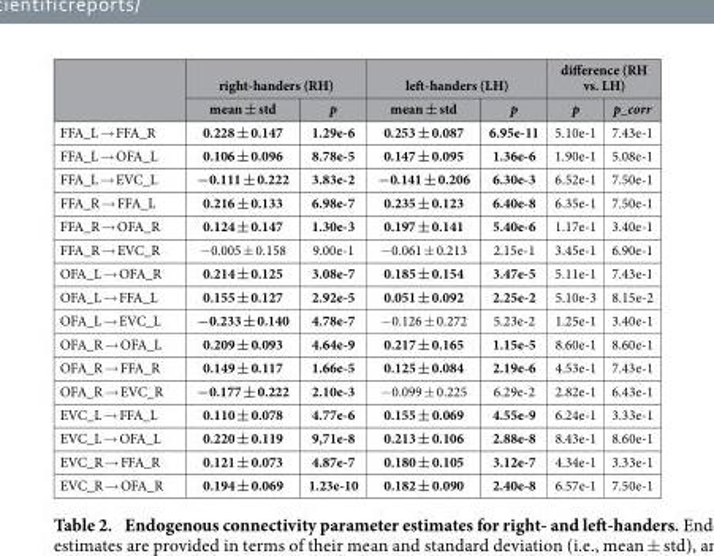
<table><thead><tr><td rowspan="2"></td><td colspan="2">right-handers (RH)</td><td colspan="2">left-handers (LH)</td><td colspan="2">difference (RH vs. LH)</td></tr><tr><td>mean ± std</td><td>p</td><td>mean ± std</td><td>p</td><td>p</td><td>p_corr</td></tr></thead><tbody><tr><td>FFA_L → FFA_R</td><td>0.228 ± 0.147</td><td>1.29e-6</td><td>0.253 ± 0.087</td><td>6.95e-11</td><td>5.10e-1</td><td>7.43e-1</td></tr><tr><td>FFA_L → OFA_L</td><td>0.106 ± 0.096</td><td>8.78e-5</td><td>0.147 ± 0.095</td><td>1.36e-6</td><td>1.90e-1</td><td>5.08e-1</td></tr><tr><td>FFA_L → EVC_L</td><td>−0.111 ± 0.222</td><td>3.83e-2</td><td>−0.141 ± 0.206</td><td>6.30e-3</td><td>6.52e-1</td><td>7.50e-1</td></tr><tr><td>FFA_R → FFA_L</td><td>0.216 ± 0.133</td><td>6.98e-7</td><td>0.235 ± 0.123</td><td>6.40e-8</td><td>6.35e-1</td><td>7.50e-1</td></tr><tr><td>FFA_R → OFA_R</td><td>0.124 ± 0.147</td><td>1.30e-3</td><td>0.197 ± 0.141</td><td>5.40e-6</td><td>1.17e-1</td><td>3.40e-1</td></tr><tr><td>FFA_R → EVC_R</td><td>− 0.005 ± 0.158</td><td>9.00e-1</td><td>− 0.061 ± 0.213</td><td>2.15e-1</td><td>3.45e-1</td><td>6.90e-1</td></tr><tr><td>OFA_L → OFA_R</td><td>0.214 ± 0.125</td><td>3.08e-7</td><td>0.185 ± 0.154</td><td>3.47e-5</td><td>5.11e-1</td><td>7.43e-1</td></tr><tr><td>OFA_L → FFA_L</td><td>0.155 ± 0.127</td><td>2.92e-5</td><td>0.051 ± 0.092</td><td>2.25e-2</td><td>5.10e-3</td><td>8.15e-2</td></tr><tr><td>OFA_L → EVC_L</td><td>−0.233 ± 0.140</td><td>4.78e-7</td><td>− 0.126 ± 0.272</td><td>5.23e-2</td><td>1.25e-1</td><td>3.40e-1</td></tr><tr><td>OFA_R → OFA_L</td><td>0.209 ± 0.093</td><td>4.64e-9</td><td>0.217 ± 0.165</td><td>1.15e-5</td><td>8.60e-1</td><td>8.60e-1</td></tr><tr><td>OFA_R → FFA_R</td><td>0.149 ± 0.117</td><td>1.66e-5</td><td>0.125 ± 0.084</td><td>2.19e-6</td><td>4.53e-1</td><td>7.43e-1</td></tr><tr><td>OFA_R → EVC_R</td><td>−0.177 ± 0.222</td><td>2.10e-3</td><td>− 0.099 ± 0.225</td><td>6.29e-2</td><td>2.82e-1</td><td>6.43e-1</td></tr><tr><td>EVC_L → FFA_L</td><td>0.110 ± 0.078</td><td>4.77e-6</td><td>0.155 ± 0.069</td><td>4.55e-9</td><td>6.24e-1</td><td>3.33e-1</td></tr><tr><td>EVC_L → OFA_L</td><td>0.220 ± 0.119</td><td>9,71e-8</td><td>0.213 ± 0.106</td><td>2.88e-8</td><td>8.43e-1</td><td>8.60e-1</td></tr><tr><td>EVC_R → FFA_R</td><td>0.121 ± 0.073</td><td>4.87e-7</td><td>0.180 ± 0.105</td><td>3.12e-7</td><td>4.34e-1</td><td>3.33e-1</td></tr><tr><td>EVC_R → OFA_R</td><td>0.194 ± 0.069</td><td>1.23e-10</td><td>0.182 ± 0.090</td><td>2.40e-8</td><td>6.57e-1</td><td>7.50e-1</td></tr></tbody></table>